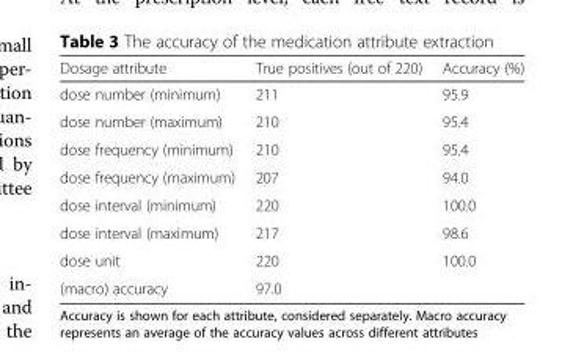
<table><thead><tr><td>Dosage attribute</td><td>True positives (out of 220)</td><td>Accuracy (%)</td></tr></thead><tbody><tr><td>dose number (minimum)</td><td>211</td><td>95.9</td></tr><tr><td>dose number (maximum)</td><td>210</td><td>95.4</td></tr><tr><td>dose frequency (minimum)</td><td>210</td><td>95.4</td></tr><tr><td>dose frequency (maximum)</td><td>207</td><td>94.0</td></tr><tr><td>dose interval (minimum)</td><td>220</td><td>100.0</td></tr><tr><td>dose interval (maximum)</td><td>217</td><td>98.6</td></tr><tr><td>dose unit</td><td>220</td><td>100.0</td></tr><tr><td>(macro) accuracy</td><td colspan="2">97.0</td></tr></tbody></table>